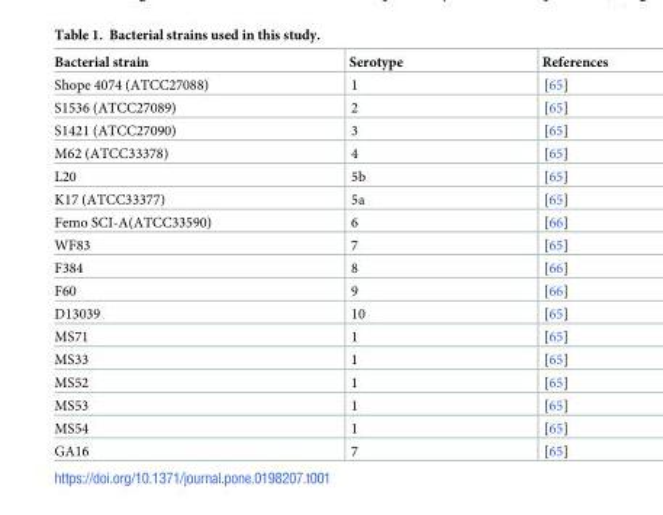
<table><thead><tr><td>Bacterial strain</td><td>Serotype</td><td>References</td></tr></thead><tbody><tr><td>Shope 4074 (ATCC27088)</td><td>1</td><td>[65]</td></tr><tr><td>S1536 (ATCC27089)</td><td>2</td><td>[65]</td></tr><tr><td>S1421 (ATCC27090)</td><td>3</td><td>[65]</td></tr><tr><td>M62 (ATCC33378)</td><td>4</td><td>[65]</td></tr><tr><td>L20</td><td>5b</td><td>[65]</td></tr><tr><td>K17 (ATCC33377)</td><td>5a</td><td>[65]</td></tr><tr><td>Femo SCI-A(ATCC33590)</td><td>6</td><td>[66]</td></tr><tr><td>WF83</td><td>7</td><td>[65]</td></tr><tr><td>F384</td><td>8</td><td>[66]</td></tr><tr><td>F60</td><td>9</td><td>[66]</td></tr><tr><td>D13039</td><td>10</td><td>[65]</td></tr><tr><td>MS71</td><td>1</td><td>[65]</td></tr><tr><td>MS33</td><td>1</td><td>[65]</td></tr><tr><td>MS52</td><td>1</td><td>[65]</td></tr><tr><td>MS53</td><td>1</td><td>[65]</td></tr><tr><td>MS54</td><td>1</td><td>[65]</td></tr><tr><td>GA16</td><td>7</td><td>[65]</td></tr></tbody></table>